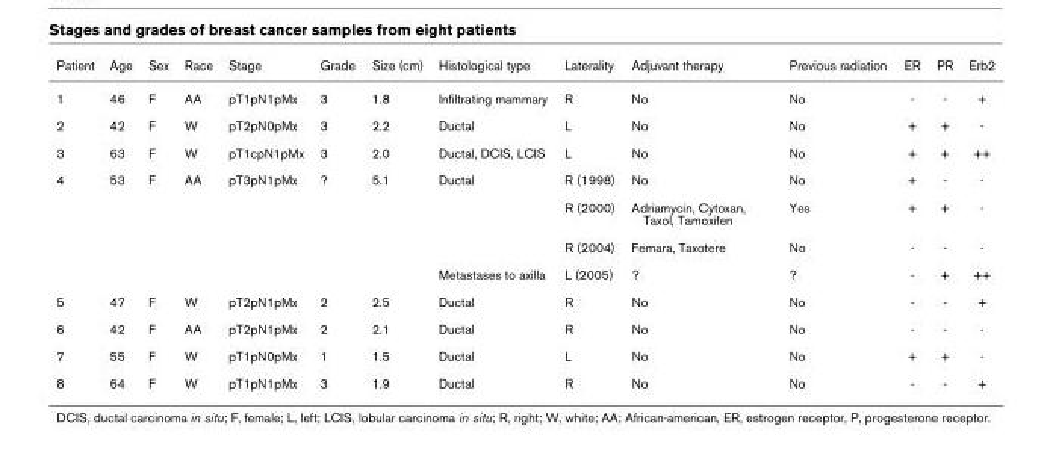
<table><thead><tr><td>Patient</td><td>Age</td><td>Sex</td><td>Race</td><td>Stage</td><td>Grade</td><td>Size (cm)</td><td>Histological type</td><td>Laterality</td><td>Adjuvant therapy</td><td>Previous radiation</td><td>ER</td><td>PR</td><td>Erb2</td></tr></thead><tbody><tr><td>1</td><td>46</td><td>F</td><td>AA</td><td>pT1pN1pMx</td><td>3</td><td>1.8</td><td>Infiltrating mammary</td><td>R</td><td>No</td><td>No</td><td>-</td><td>-</td><td>+</td></tr><tr><td>2</td><td>42</td><td>F</td><td>W</td><td>pT2pN0pMx</td><td>3</td><td>2.2</td><td>Ductal</td><td>L</td><td>No</td><td>No</td><td>+</td><td>+</td><td>-</td></tr><tr><td>3</td><td>63</td><td>F</td><td>W</td><td>pT1cpN1pMx</td><td>3</td><td>2.0</td><td>Ductal, DCIS, LCIS</td><td>L</td><td>No</td><td>No</td><td>+</td><td>+</td><td>++</td></tr><tr><td rowspan="4">4</td><td>53</td><td>F</td><td>AA</td><td>pT3pN1pMx</td><td>?</td><td>5.1</td><td>Ductal</td><td>R (1998)</td><td>No</td><td>No</td><td>+</td><td>-</td><td>-</td></tr><tr><td></td><td></td><td></td><td></td><td></td><td></td><td></td><td>R (2000)</td><td>Adriamycin, Cytoxan, Taxol, Tamoxifen</td><td>Yes</td><td>+</td><td>+</td><td>-</td></tr><tr><td></td><td></td><td></td><td></td><td></td><td></td><td></td><td>R (2004)</td><td>Femara, Taxotere</td><td>No</td><td>-</td><td>-</td><td>-</td></tr><tr><td></td><td></td><td></td><td></td><td></td><td></td><td>Metastases to axilla</td><td>L (2005)</td><td>?</td><td>?</td><td>-</td><td>+</td><td>++</td></tr><tr><td>5</td><td>47</td><td>F</td><td>W</td><td>pT2pN1pMx</td><td>2</td><td>2.5</td><td>Ductal</td><td>R</td><td>No</td><td>No</td><td>-</td><td>-</td><td>+</td></tr><tr><td>6</td><td>42</td><td>F</td><td>AA</td><td>pT2pN1pMx</td><td>2</td><td>2.1</td><td>Ductal</td><td>R</td><td>No</td><td>No</td><td>-</td><td>-</td><td>-</td></tr><tr><td>7</td><td>55</td><td>F</td><td>W</td><td>pT1pN0pMx</td><td>1</td><td>1.5</td><td>Ductal</td><td>L</td><td>No</td><td>No</td><td>+</td><td>+</td><td>-</td></tr><tr><td>8</td><td>64</td><td>F</td><td>W</td><td>pT1pN1pMx</td><td>3</td><td>1.9</td><td>Ductal</td><td>R</td><td>No</td><td>No</td><td>-</td><td>-</td><td>+</td></tr></tbody></table>